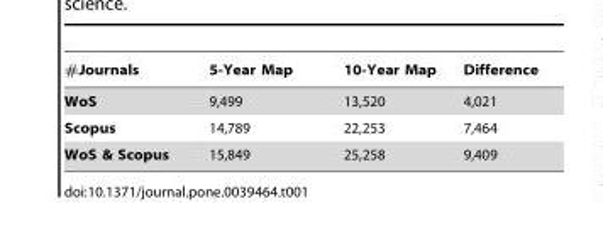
<table><thead><tr><td>#Journals</td><td>5-Year Map</td><td>10-Year Map</td><td>Difference</td></tr></thead><tbody><tr><td>WoS</td><td>9,499</td><td>13,520</td><td>4,021</td></tr><tr><td>Scopus</td><td>14,789</td><td>22,253</td><td>7,464</td></tr><tr><td>WoS &amp; Scopus</td><td>15,849</td><td>25,258</td><td>9,409</td></tr></tbody></table>